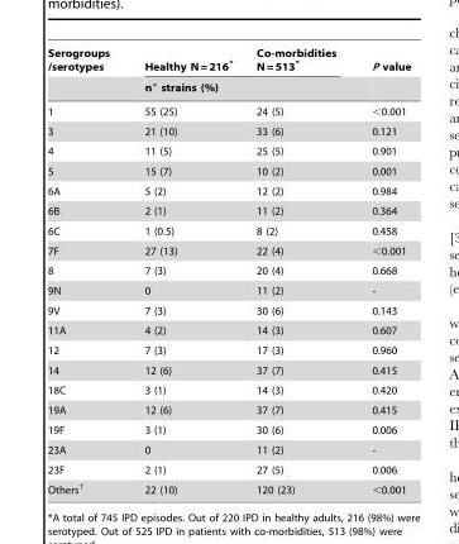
<table><thead><tr><td rowspan="2">Serogroups /serotypes</td><td>Healthy N = 216*</td><td>Co-morbidities N = 513*</td><td rowspan="2">P value</td></tr><tr><td colspan="2">n° strains (%)</td></tr></thead><tbody><tr><td>1</td><td>55 (25)</td><td>24 (5)</td><td>&lt;0.001</td></tr><tr><td>3</td><td>21 (10)</td><td>33 (6)</td><td>0.121</td></tr><tr><td>4</td><td>11 (5)</td><td>25 (5)</td><td>0.901</td></tr><tr><td>5</td><td>15 (7)</td><td>10 (2)</td><td>0.001</td></tr><tr><td>6A</td><td>5 (2)</td><td>12 (2)</td><td>0.984</td></tr><tr><td>6B</td><td>2 (1)</td><td>11 (2)</td><td>0.364</td></tr><tr><td>6C</td><td>1 (0.5)</td><td>8 (2)</td><td>0.458</td></tr><tr><td>7F</td><td>27 (13)</td><td>22 (4)</td><td>&lt;0.001</td></tr><tr><td>8</td><td>7 (3)</td><td>20 (4)</td><td>0.668</td></tr><tr><td>9N</td><td>0</td><td>11 (2)</td><td>-</td></tr><tr><td>9V</td><td>7 (3)</td><td>30 (6)</td><td>0.143</td></tr><tr><td>11A</td><td>4 (2)</td><td>14 (3)</td><td>0.607</td></tr><tr><td>12</td><td>7 (3)</td><td>17 (3)</td><td>0.960</td></tr><tr><td>14</td><td>12 (6)</td><td>37 (7)</td><td>0.415</td></tr><tr><td>18C</td><td>3 (1)</td><td>14 (3)</td><td>0.420</td></tr><tr><td>19A</td><td>12 (6)</td><td>37 (7)</td><td>0.415</td></tr><tr><td>19F</td><td>3 (1)</td><td>30 (6)</td><td>0.006</td></tr><tr><td>23A</td><td>0</td><td>11 (2)</td><td>-</td></tr><tr><td>23F</td><td>2 (1)</td><td>27 (5)</td><td>0.006</td></tr><tr><td>Others†</td><td>22 (10)</td><td>120 (23)</td><td>&lt;0.001</td></tr></tbody></table>